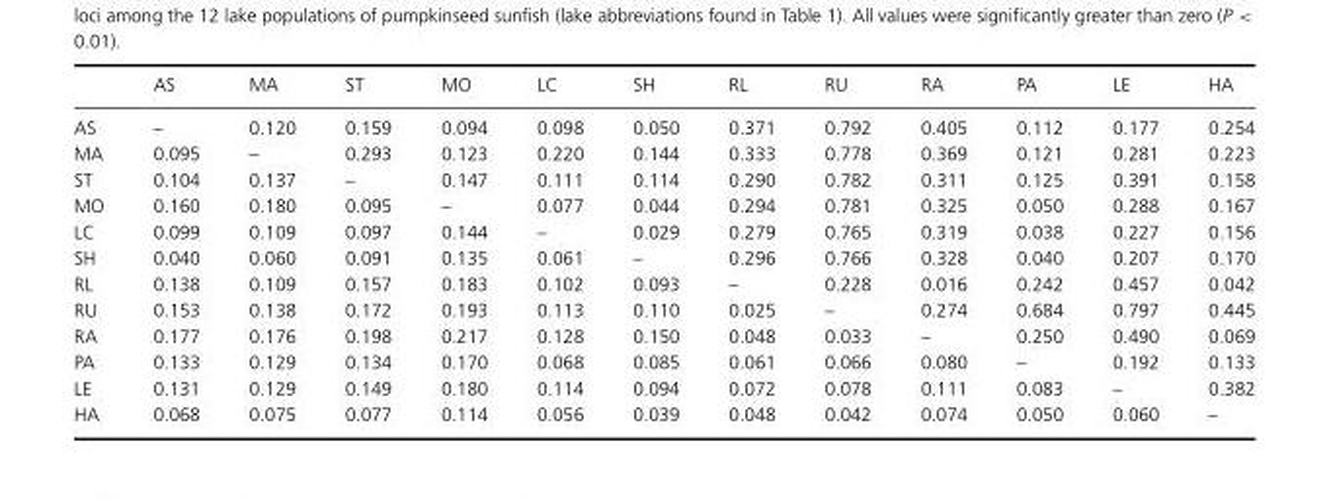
<table><thead><tr><td></td><td>AS</td><td>MA</td><td>ST</td><td>MO</td><td>LC</td><td>SH</td><td>RL</td><td>RU</td><td>RA</td><td>PA</td><td>LE</td><td>HA</td></tr></thead><tbody><tr><td>AS</td><td>–</td><td>0.120</td><td>0.159</td><td>0.094</td><td>0.098</td><td>0.050</td><td>0.371</td><td>0.792</td><td>0.405</td><td>0.112</td><td>0.177</td><td>0.254</td></tr><tr><td>MA</td><td>0.095</td><td>–</td><td>0.293</td><td>0.123</td><td>0.220</td><td>0.144</td><td>0.333</td><td>0.778</td><td>0.369</td><td>0.121</td><td>0.281</td><td>0.223</td></tr><tr><td>ST</td><td>0.104</td><td>0.137</td><td>–</td><td>0.147</td><td>0.111</td><td>0.114</td><td>0.290</td><td>0.782</td><td>0.311</td><td>0.125</td><td>0.391</td><td>0.158</td></tr><tr><td>MO</td><td>0.160</td><td>0.180</td><td>0.095</td><td>–</td><td>0.077</td><td>0.044</td><td>0.294</td><td>0.781</td><td>0.325</td><td>0.050</td><td>0.288</td><td>0.167</td></tr><tr><td>LC</td><td>0.099</td><td>0.109</td><td>0.097</td><td>0.144</td><td>–</td><td>0.029</td><td>0.279</td><td>0.765</td><td>0.319</td><td>0.038</td><td>0.227</td><td>0.156</td></tr><tr><td>SH</td><td>0.040</td><td>0.060</td><td>0.091</td><td>0.135</td><td>0.061</td><td>–</td><td>0.296</td><td>0.766</td><td>0.328</td><td>0.040</td><td>0.207</td><td>0.170</td></tr><tr><td>RL</td><td>0.138</td><td>0.109</td><td>0.157</td><td>0.183</td><td>0.102</td><td>0.093</td><td>–</td><td>0.228</td><td>0.016</td><td>0.242</td><td>0.457</td><td>0.042</td></tr><tr><td>RU</td><td>0.153</td><td>0.138</td><td>0.172</td><td>0.193</td><td>0.113</td><td>0.110</td><td>0.025</td><td>–</td><td>0.274</td><td>0.684</td><td>0.797</td><td>0.445</td></tr><tr><td>RA</td><td>0.177</td><td>0.176</td><td>0.198</td><td>0.217</td><td>0.128</td><td>0.150</td><td>0.048</td><td>0.033</td><td>–</td><td>0.250</td><td>0.490</td><td>0.069</td></tr><tr><td>PA</td><td>0.133</td><td>0.129</td><td>0.134</td><td>0.170</td><td>0.068</td><td>0.085</td><td>0.061</td><td>0.066</td><td>0.080</td><td>–</td><td>0.192</td><td>0.133</td></tr><tr><td>LE</td><td>0.131</td><td>0.129</td><td>0.149</td><td>0.180</td><td>0.114</td><td>0.094</td><td>0.072</td><td>0.078</td><td>0.111</td><td>0.083</td><td>–</td><td>0.382</td></tr><tr><td>HA</td><td>0.068</td><td>0.075</td><td>0.077</td><td>0.114</td><td>0.056</td><td>0.039</td><td>0.048</td><td>0.042</td><td>0.074</td><td>0.050</td><td>0.060</td><td>–</td></tr></tbody></table>